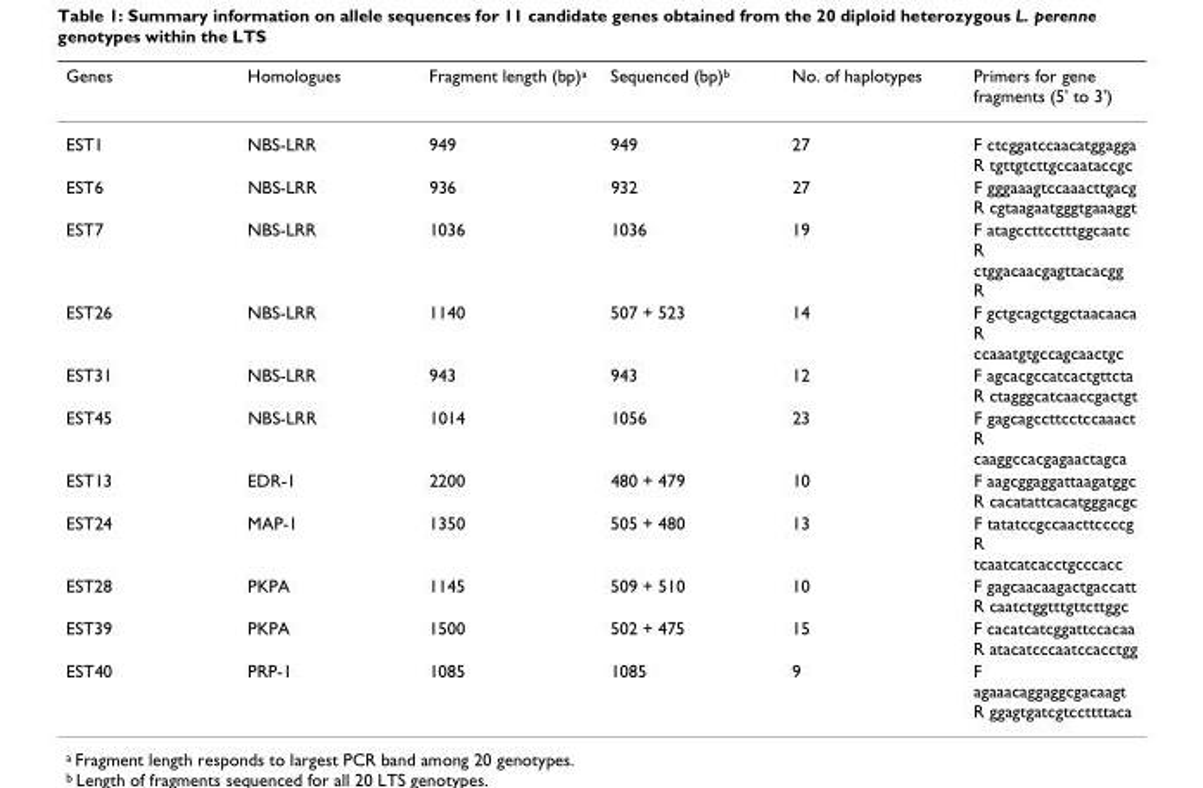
<table><thead><tr><td>Genes</td><td>Homologues</td><td>Fragment length (bp)<sup>a</sup></td><td>Sequenced (bp)<sup>b</sup></td><td>No. of haplotypes</td><td>Primers for gene fragments (5&#x27; to 3&#x27;)</td></tr></thead><tbody><tr><td>EST1</td><td>NBS-LRR</td><td>949</td><td>949</td><td>27</td><td>F ctcggatccaacatggagga R tgttgtcttgccaataccgc</td></tr><tr><td>EST6</td><td>NBS-LRR</td><td>936</td><td>932</td><td>27</td><td>F gggaaagtccaaacttgacg R cgtaagaatgggtgaaaggt</td></tr><tr><td>EST7</td><td>NBS-LRR</td><td>1036</td><td>1036</td><td>19</td><td>F atagccttcctttggcaatc R ctggacaacgagttacacgg R</td></tr><tr><td>EST26</td><td>NBS-LRR</td><td>1140</td><td>507 + 523</td><td>14</td><td>F gctgcagctggctaacaaca R ccaaatgtgccagcaactgc</td></tr><tr><td>EST31</td><td>NBS-LRR</td><td>943</td><td>943</td><td>12</td><td>F agcacgccatcactgttcta R ctagggcatcaaccgactgt</td></tr><tr><td>EST45</td><td>NBS-LRR</td><td>1014</td><td>1056</td><td>23</td><td>F gagcagccttcctccaaact R caaggccacgagaactagca</td></tr><tr><td>EST13</td><td>EDR-1</td><td>2200</td><td>480 + 479</td><td>10</td><td>F aagcggaggattaagatggc R cacatattcacatgggacgc</td></tr><tr><td>EST24</td><td>MAP-1</td><td>1350</td><td>505 + 480</td><td>13</td><td>F tatatccgccaacttccccg R tcaatcatcacctgcccacc</td></tr><tr><td>EST28</td><td>PKPA</td><td>1145</td><td>509 + 510</td><td>10</td><td>F gagcaacaagactgaccatt R caatctggtttgttcttggc</td></tr><tr><td>EST39</td><td>PKPA</td><td>1500</td><td>502 + 475</td><td>15</td><td>F cacatcatcggattccacaa R atacatcccaatccacctgg</td></tr><tr><td>EST40</td><td>PRP-1</td><td>1085</td><td>1085</td><td>9</td><td>F agaaacaggaggcgacaagt R ggagtgatcgtccttttaca</td></tr></tbody></table>